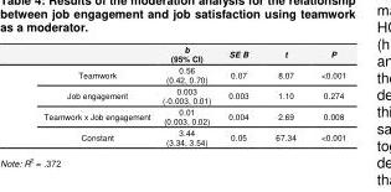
<table><thead><tr><td></td><td>b (95% CI)</td><td>SE B</td><td>t</td><td>P</td></tr></thead><tbody><tr><td>Teamwork</td><td>0.56 (0.42, 0.70)</td><td>0.07</td><td>8.07</td><td>&lt;0.001</td></tr><tr><td>Job engagement</td><td>0.003 (-0.003, 0.01)</td><td>0.003</td><td>1.10</td><td>0.274</td></tr><tr><td>Teamwork x Job engagement</td><td>0.01 (0.003, 0.02)</td><td>0.004</td><td>2.69</td><td>0.008</td></tr><tr><td>Constant</td><td>3.44 (3.34, 3.54)</td><td>0.05</td><td>67.34</td><td>&lt;0.001</td></tr></tbody></table>